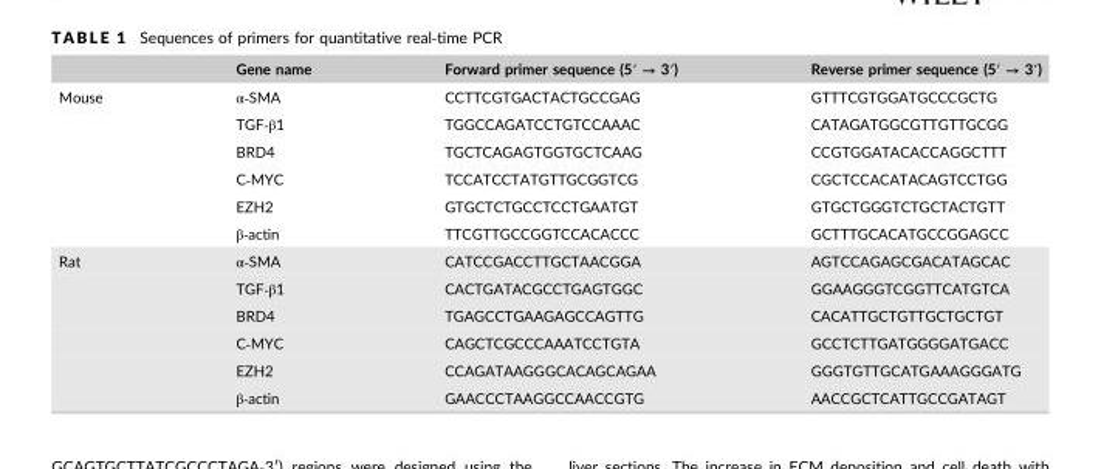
<table><thead><tr><td></td><td>Gene name</td><td>Forward primer sequence (5′ → 3′)</td><td>Reverse primer sequence (5′ → 3′)</td></tr></thead><tbody><tr><td rowspan="6">Mouse</td><td>α‐SMA</td><td>CCTTCGTGACTACTGCCGAG</td><td>GTTTCGTGGATGCCCGCTG</td></tr><tr><td>TGF‐β1</td><td>TGGCCAGATCCTGTCCAAAC</td><td>CATAGATGGCGTTGTTGCGG</td></tr><tr><td>BRD4</td><td>TGCTCAGAGTGGTGCTCAAG</td><td>CCGTGGATACACCAGGCTTT</td></tr><tr><td>C‐MYC</td><td>TCCATCCTATGTTGCGGTCG</td><td>CGCTCCACATACAGTCCTGG</td></tr><tr><td>EZH2</td><td>GTGCTCTGCCTCCTGAATGT</td><td>GTGCTGGGTCTGCTACTGTT</td></tr><tr><td>β‐actin</td><td>TTCGTTGCCGGTCCACACCC</td><td>GCTTTGCACATGCCGGAGCC</td></tr><tr><td rowspan="6">Rat</td><td>α‐SMA</td><td>CATCCGACCTTGCTAACGGA</td><td>AGTCCAGAGCGACATAGCAC</td></tr><tr><td>TGF‐β1</td><td>CACTGATACGCCTGAGTGGC</td><td>GGAAGGGTCGGTTCATGTCA</td></tr><tr><td>BRD4</td><td>TGAGCCTGAAGAGCCAGTTG</td><td>CACATTGCTGTTGCTGCTGT</td></tr><tr><td>C‐MYC</td><td>CAGCTCGCCCAAATCCTGTA</td><td>GCCTCTTGATGGGGATGACC</td></tr><tr><td>EZH2</td><td>CCAGATAAGGGCACAGCAGAA</td><td>GGGTGTTGCATGAAAGGGATG</td></tr><tr><td>β‐actin</td><td>GAACCCTAAGGCCAACCGTG</td><td>AACCGCTCATTGCCGATAGT</td></tr></tbody></table>